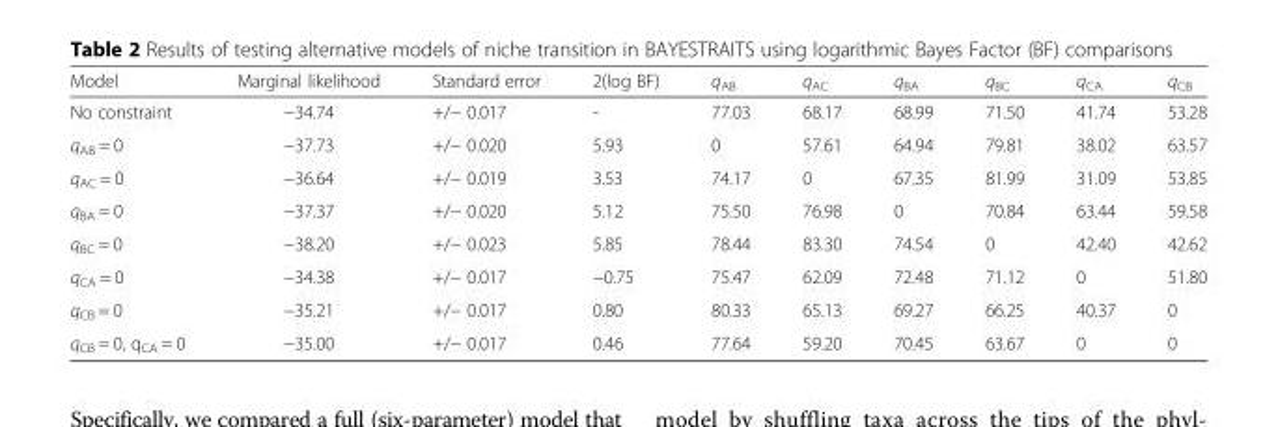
<table><thead><tr><td>Model</td><td>Marginal likelihood</td><td>Standard error</td><td>2(log BF)</td><td>q<sub>AB</sub></td><td>q<sub>AC</sub></td><td>q<sub>BA</sub></td><td>q<sub>BC</sub></td><td>q<sub>CA</sub></td><td>q<sub>CB</sub></td></tr></thead><tbody><tr><td>No constraint</td><td>−34.74</td><td>+/− 0.017</td><td>-</td><td>77.03</td><td>68.17</td><td>68.99</td><td>71.50</td><td>41.74</td><td>53.28</td></tr><tr><td>q<sub>AB</sub> = 0</td><td>−37.73</td><td>+/− 0.020</td><td>5.93</td><td>0</td><td>57.61</td><td>64.94</td><td>79.81</td><td>38.02</td><td>63.57</td></tr><tr><td>q<sub>AC</sub> = 0</td><td>−36.64</td><td>+/− 0.019</td><td>3.53</td><td>74.17</td><td>0</td><td>67.35</td><td>81.99</td><td>31.09</td><td>53.85</td></tr><tr><td>q<sub>BA</sub> = 0</td><td>−37.37</td><td>+/− 0.020</td><td>5.12</td><td>75.50</td><td>76.98</td><td>0</td><td>70.84</td><td>63.44</td><td>59.58</td></tr><tr><td>q<sub>BC</sub> = 0</td><td>−38.20</td><td>+/− 0.023</td><td>5.85</td><td>78.44</td><td>83.30</td><td>74.54</td><td>0</td><td>42.40</td><td>42.62</td></tr><tr><td>q<sub>CA</sub> = 0</td><td>−34.38</td><td>+/− 0.017</td><td>−0.75</td><td>75.47</td><td>62.09</td><td>72.48</td><td>71.12</td><td>0</td><td>51.80</td></tr><tr><td>q<sub>CB</sub> = 0</td><td>−35.21</td><td>+/− 0.017</td><td>0.80</td><td>80.33</td><td>65.13</td><td>69.27</td><td>66.25</td><td>40.37</td><td>0</td></tr><tr><td>q<sub>CB</sub> = 0, q<sub>CA</sub> = 0</td><td>−35.00</td><td>+/− 0.017</td><td>0.46</td><td>77.64</td><td>59.20</td><td>70.45</td><td>63.67</td><td>0</td><td>0</td></tr></tbody></table>